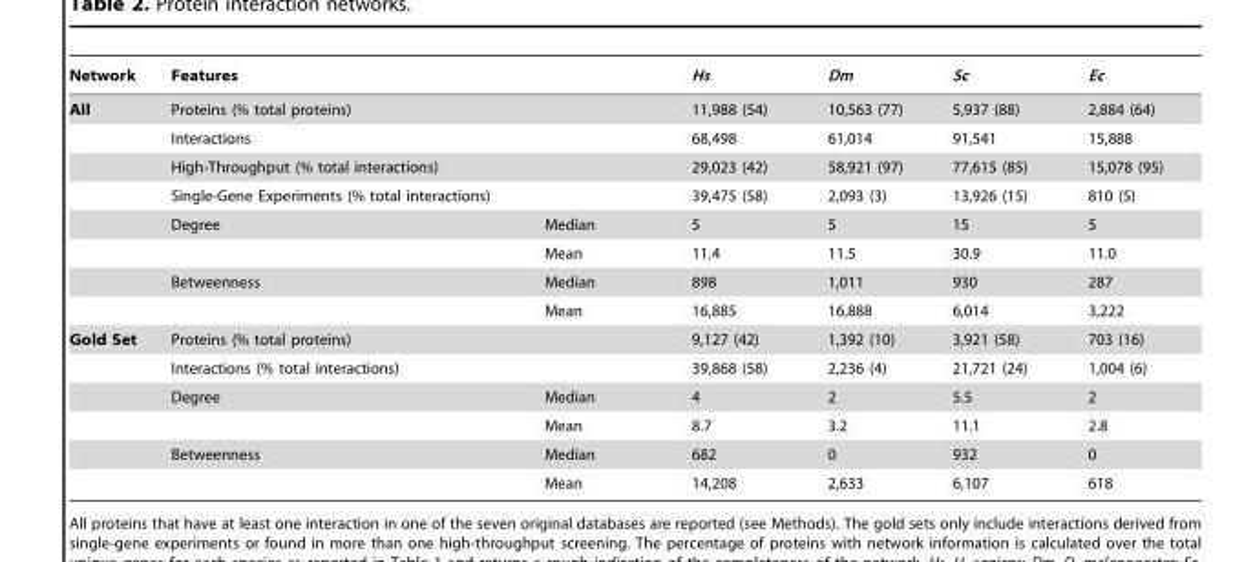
<table><thead><tr><td>Network</td><td colspan="2">Features</td><td>Hs</td><td>Dm</td><td>Sc</td><td>Ec</td></tr></thead><tbody><tr><td rowspan="8">All</td><td colspan="2">Proteins (% total proteins)</td><td>11,988 (54)</td><td>10,563 (77)</td><td>5,937 (88)</td><td>2,884 (64)</td></tr><tr><td colspan="2">Interactions</td><td>68,498</td><td>61,014</td><td>91,541</td><td>15,888</td></tr><tr><td colspan="2">High-Throughput (% total interactions)</td><td>29,023 (42)</td><td>58,921 (97)</td><td>77,615 (85)</td><td>15,078 (95)</td></tr><tr><td colspan="2">Single-Gene Experiments (% total interactions)</td><td>39,475 (58)</td><td>2,093 (3)</td><td>13,926 (15)</td><td>810 (5)</td></tr><tr><td>Degree</td><td>Median</td><td>5</td><td>5</td><td>15</td><td>5</td></tr><tr><td></td><td>Mean</td><td>11.4</td><td>11.5</td><td>30.9</td><td>11.0</td></tr><tr><td>Betweenness</td><td>Median</td><td>898</td><td>1,011</td><td>930</td><td>287</td></tr><tr><td></td><td>Mean</td><td>16,885</td><td>16,888</td><td>6,014</td><td>3,222</td></tr><tr><td rowspan="6">Gold Set</td><td colspan="2">Proteins (% total proteins)</td><td>9,127 (42)</td><td>1,392 (10)</td><td>3,921 (58)</td><td>703 (16)</td></tr><tr><td colspan="2">Interactions (% total interactions)</td><td>39,868 (58)</td><td>2,236 (4)</td><td>21,721 (24)</td><td>1,004 (6)</td></tr><tr><td>Degree</td><td>Median</td><td>4</td><td>2</td><td>5.5</td><td>2</td></tr><tr><td></td><td>Mean</td><td>8.7</td><td>3.2</td><td>11.1</td><td>2.8</td></tr><tr><td>Betweenness</td><td>Median</td><td>682</td><td>0</td><td>932</td><td>0</td></tr><tr><td></td><td>Mean</td><td>14,208</td><td>2,633</td><td>6,107</td><td>618</td></tr></tbody></table>